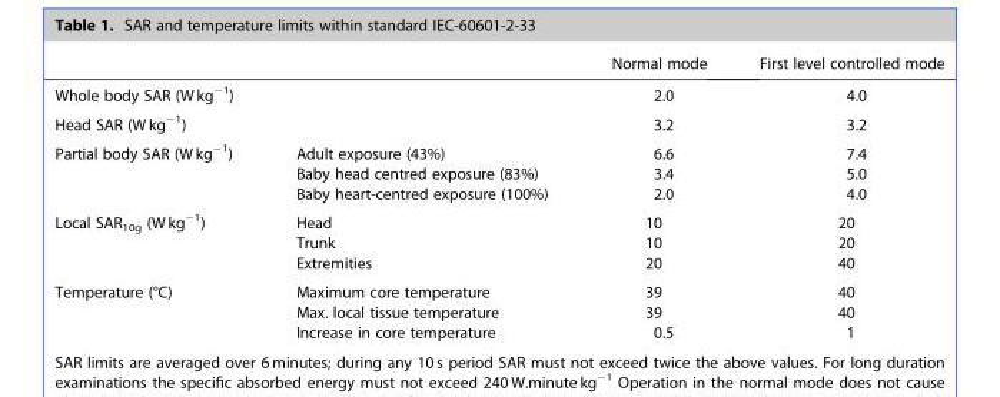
<table><thead><tr><td></td><td></td><td>Normal mode</td><td>First level controlled mode</td></tr></thead><tbody><tr><td colspan="2">Whole body SAR (W kg<sup>−1</sup>)</td><td>2.0</td><td>4.0</td></tr><tr><td colspan="2">Head SAR (W kg<sup>−1</sup>)</td><td>3.2</td><td>3.2</td></tr><tr><td rowspan="3">Partial body SAR (W kg<sup>−1</sup>)</td><td>Adult exposure (43%)</td><td>6.6</td><td>7.4</td></tr><tr><td>Baby head centred exposure (83%)</td><td>3.4</td><td>5.0</td></tr><tr><td>Baby heart-centred exposure (100%)</td><td>2.0</td><td>4.0</td></tr><tr><td rowspan="3">Local SAR<sub>10g</sub> (W kg<sup>−1</sup>)</td><td>Head</td><td>10</td><td>20</td></tr><tr><td>Trunk</td><td>10</td><td>20</td></tr><tr><td>Extremities</td><td>20</td><td>40</td></tr><tr><td rowspan="3">Temperature (°C)</td><td>Maximum core temperature</td><td>39</td><td>40</td></tr><tr><td>Max. local tissue temperature</td><td>39</td><td>40</td></tr><tr><td>Increase in core temperature</td><td>0.5</td><td>1</td></tr></tbody></table>